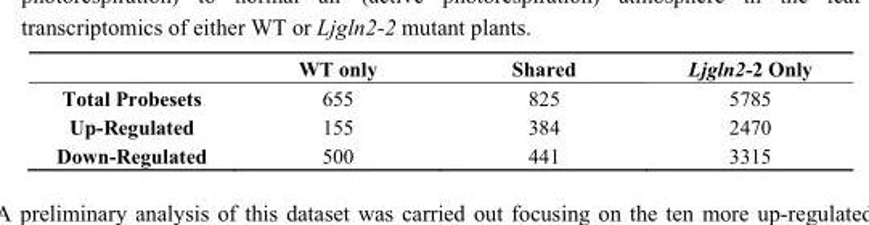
<table><thead><tr><td></td><td>WT only</td><td>Shared</td><td>Ljgln2-2 Only</td></tr></thead><tbody><tr><td>Total Probesets</td><td>655</td><td>825</td><td>5785</td></tr><tr><td>Up-Regulated</td><td>155</td><td>384</td><td>2470</td></tr><tr><td>Down-Regulated</td><td>500</td><td>441</td><td>3315</td></tr></tbody></table>